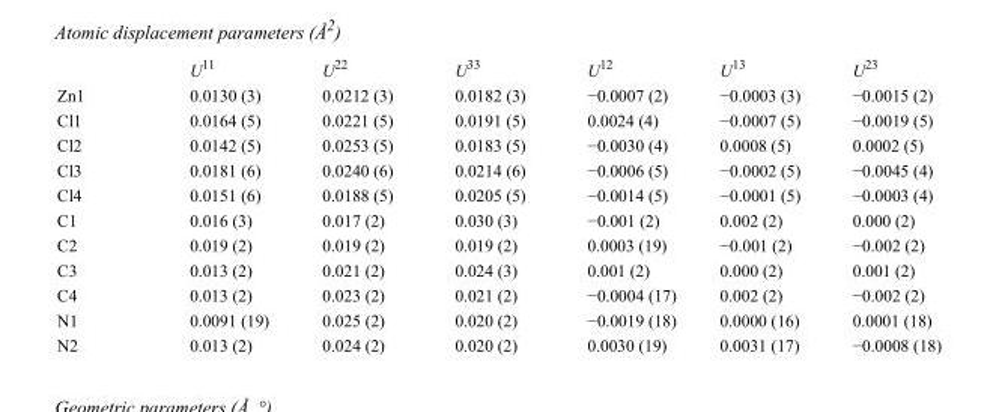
<table><thead><tr><td></td><td>U<sup>11</sup></td><td>U<sup>22</sup></td><td>U<sup>33</sup></td><td>U<sup>12</sup></td><td>U<sup>13</sup></td><td>U<sup>23</sup></td></tr></thead><tbody><tr><td>Zn1</td><td>0.0130 (3)</td><td>0.0212 (3)</td><td>0.0182 (3)</td><td>−0.0007 (2)</td><td>−0.0003 (3)</td><td>−0.0015 (2)</td></tr><tr><td>Cl1</td><td>0.0164 (5)</td><td>0.0221 (5)</td><td>0.0191 (5)</td><td>0.0024 (4)</td><td>−0.0007 (5)</td><td>−0.0019 (5)</td></tr><tr><td>Cl2</td><td>0.0142 (5)</td><td>0.0253 (5)</td><td>0.0183 (5)</td><td>−0.0030 (4)</td><td>0.0008 (5)</td><td>0.0002 (5)</td></tr><tr><td>Cl3</td><td>0.0181 (6)</td><td>0.0240 (6)</td><td>0.0214 (6)</td><td>−0.0006 (5)</td><td>−0.0002 (5)</td><td>−0.0045 (4)</td></tr><tr><td>Cl4</td><td>0.0151 (6)</td><td>0.0188 (5)</td><td>0.0205 (5)</td><td>−0.0014 (5)</td><td>−0.0001 (5)</td><td>−0.0003 (4)</td></tr><tr><td>C1</td><td>0.016 (3)</td><td>0.017 (2)</td><td>0.030 (3)</td><td>−0.001 (2)</td><td>0.002 (2)</td><td>0.000 (2)</td></tr><tr><td>C2</td><td>0.019 (2)</td><td>0.019 (2)</td><td>0.019 (2)</td><td>0.0003 (19)</td><td>−0.001 (2)</td><td>−0.002 (2)</td></tr><tr><td>C3</td><td>0.013 (2)</td><td>0.021 (2)</td><td>0.024 (3)</td><td>0.001 (2)</td><td>0.000 (2)</td><td>0.001 (2)</td></tr><tr><td>C4</td><td>0.013 (2)</td><td>0.023 (2)</td><td>0.021 (2)</td><td>−0.0004 (17)</td><td>0.002 (2)</td><td>−0.002 (2)</td></tr><tr><td>N1</td><td>0.0091 (19)</td><td>0.025 (2)</td><td>0.020 (2)</td><td>−0.0019 (18)</td><td>0.0000 (16)</td><td>0.0001 (18)</td></tr><tr><td>N2</td><td>0.013 (2)</td><td>0.024 (2)</td><td>0.020 (2)</td><td>0.0030 (19)</td><td>0.0031 (17)</td><td>−0.0008 (18)</td></tr></tbody></table>